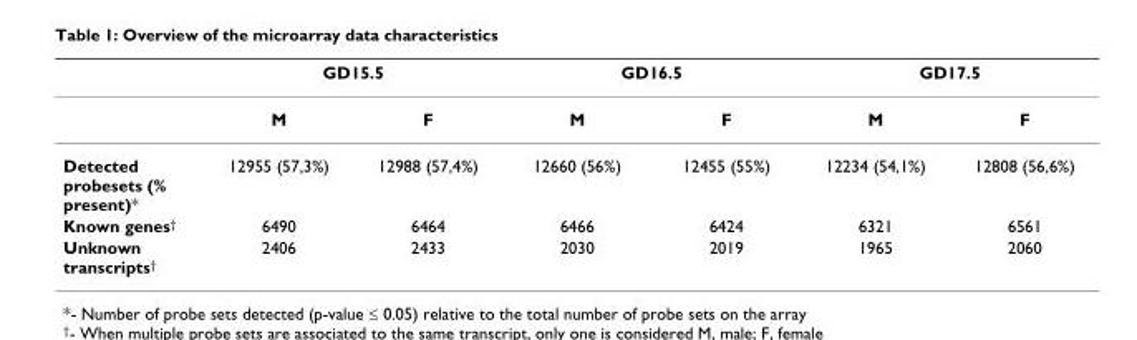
<table><thead><tr><td rowspan="2"></td><td colspan="2">GD15.5</td><td colspan="2">GD16.5</td><td colspan="2">GD17.5</td></tr><tr><td>M</td><td>F</td><td>M</td><td>F</td><td>M</td><td>F</td></tr></thead><tbody><tr><td>Detected probesets (% present)*</td><td>12955 (57,3%)</td><td>12988 (57,4%)</td><td>12660 (56%)</td><td>12455 (55%)</td><td>12234 (54,1%)</td><td>12808 (56,6%)</td></tr><tr><td>Known genes<sup>†</sup></td><td>6490</td><td>6464</td><td>6466</td><td>6424</td><td>6321</td><td>6561</td></tr><tr><td>Unknown transcripts<sup>†</sup></td><td>2406</td><td>2433</td><td>2030</td><td>2019</td><td>1965</td><td>2060</td></tr></tbody></table>